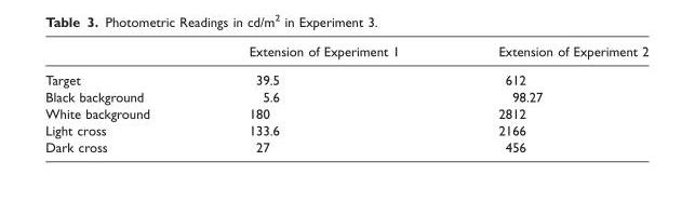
<table><thead><tr><td></td><td>Extension of Experiment 1</td><td>Extension of Experiment 2</td></tr></thead><tbody><tr><td>Target</td><td>39.5</td><td>612</td></tr><tr><td>Black background</td><td>5.6</td><td>98.27</td></tr><tr><td>White background</td><td>180</td><td>2812</td></tr><tr><td>Light cross</td><td>133.6</td><td>2166</td></tr><tr><td>Dark cross</td><td>27</td><td>456</td></tr></tbody></table>